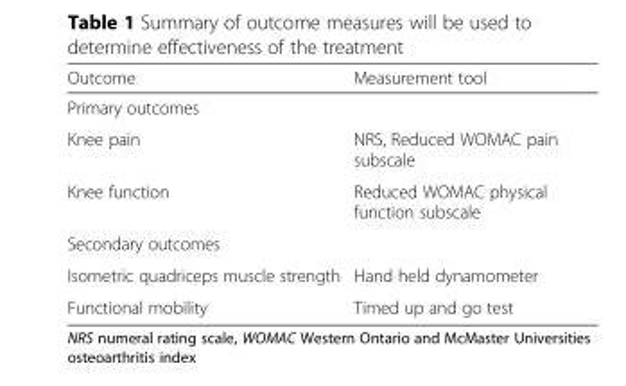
<table><thead><tr><td>Outcome</td><td>Measurement tool</td></tr></thead><tbody><tr><td colspan="2">Primary outcomes</td></tr><tr><td>Knee pain</td><td>NRS, Reduced WOMAC pain subscale</td></tr><tr><td>Knee function</td><td>Reduced WOMAC physical function subscale</td></tr><tr><td colspan="2">Secondary outcomes</td></tr><tr><td>Isometric quadriceps muscle strength</td><td>Hand held dynamometer</td></tr><tr><td>Functional mobility</td><td>Timed up and go test</td></tr></tbody></table>